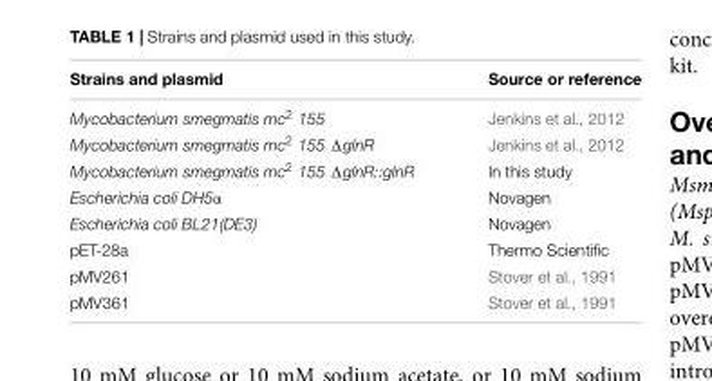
<table><thead><tr><td>Strains and plasmid</td><td>Source or reference</td></tr></thead><tbody><tr><td>Mycobacterium smegmatis mc<sup>2</sup> 155</td><td>Jenkins et al., 2012</td></tr><tr><td>Mycobacterium smegmatis mc<sup>2</sup> 155 ΔglnR</td><td>Jenkins et al., 2012</td></tr><tr><td>Mycobacterium smegmatis mc<sup>2</sup> 155 ΔglnR::glnR</td><td>In this study</td></tr><tr><td>Escherichia coli DH5α</td><td>Novagen</td></tr><tr><td>Escherichia coli BL21(DE3)</td><td>Novagen</td></tr><tr><td>pET-28a</td><td>Thermo Scientific</td></tr><tr><td>pMV261</td><td>Stover et al., 1991</td></tr><tr><td>pMV361</td><td>Stover et al., 1991</td></tr></tbody></table>